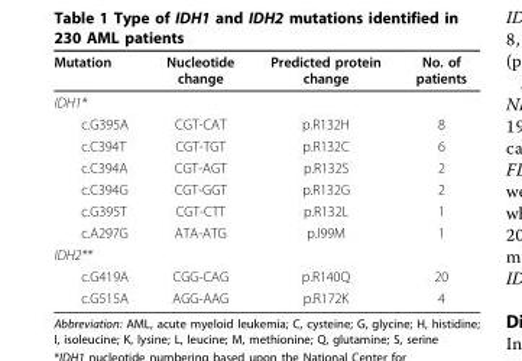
<table><thead><tr><td>Mutation</td><td>Nucleotide change</td><td>Predicted protein change</td><td>No. of patients</td></tr></thead><tbody><tr><td colspan="4">IDH1*</td></tr><tr><td>c.G395A</td><td>CGT-CAT</td><td>p.R132H</td><td>8</td></tr><tr><td>c.C394T</td><td>CGT-TGT</td><td>p.R132C</td><td>6</td></tr><tr><td>c.C394A</td><td>CGT-AGT</td><td>p.R132S</td><td>2</td></tr><tr><td>c.C394G</td><td>CGT-GGT</td><td>p.R132G</td><td>2</td></tr><tr><td>c.G395T</td><td>CGT-CTT</td><td>p.R132L</td><td>1</td></tr><tr><td>c.A297G</td><td>ATA-ATG</td><td>p.I99M</td><td>1</td></tr><tr><td colspan="4">IDH2**</td></tr><tr><td>c.G419A</td><td>CGG-CAG</td><td>p.R140Q</td><td>20</td></tr><tr><td>c.G515A</td><td>AGG-AAG</td><td>p.R172K</td><td>4</td></tr></tbody></table>